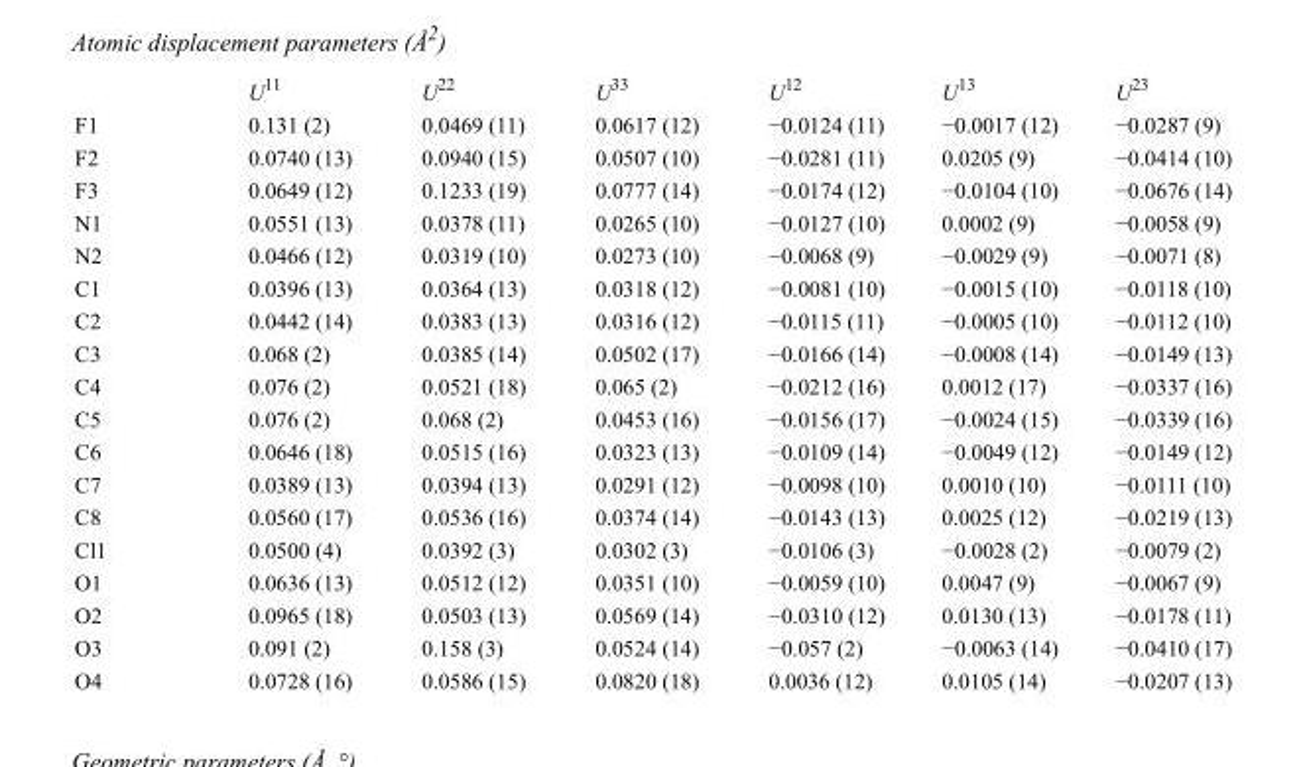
<table><thead><tr><td></td><td>U<sup>11</sup></td><td>U<sup>22</sup></td><td>U<sup>33</sup></td><td>U<sup>12</sup></td><td>U<sup>13</sup></td><td>U<sup>23</sup></td></tr></thead><tbody><tr><td>F1</td><td>0.131 (2)</td><td>0.0469 (11)</td><td>0.0617 (12)</td><td>−0.0124 (11)</td><td>−0.0017 (12)</td><td>−0.0287 (9)</td></tr><tr><td>F2</td><td>0.0740 (13)</td><td>0.0940 (15)</td><td>0.0507 (10)</td><td>−0.0281 (11)</td><td>0.0205 (9)</td><td>−0.0414 (10)</td></tr><tr><td>F3</td><td>0.0649 (12)</td><td>0.1233 (19)</td><td>0.0777 (14)</td><td>−0.0174 (12)</td><td>−0.0104 (10)</td><td>−0.0676 (14)</td></tr><tr><td>N1</td><td>0.0551 (13)</td><td>0.0378 (11)</td><td>0.0265 (10)</td><td>−0.0127 (10)</td><td>0.0002 (9)</td><td>−0.0058 (9)</td></tr><tr><td>N2</td><td>0.0466 (12)</td><td>0.0319 (10)</td><td>0.0273 (10)</td><td>−0.0068 (9)</td><td>−0.0029 (9)</td><td>−0.0071 (8)</td></tr><tr><td>C1</td><td>0.0396 (13)</td><td>0.0364 (13)</td><td>0.0318 (12)</td><td>−0.0081 (10)</td><td>−0.0015 (10)</td><td>−0.0118 (10)</td></tr><tr><td>C2</td><td>0.0442 (14)</td><td>0.0383 (13)</td><td>0.0316 (12)</td><td>−0.0115 (11)</td><td>−0.0005 (10)</td><td>−0.0112 (10)</td></tr><tr><td>C3</td><td>0.068 (2)</td><td>0.0385 (14)</td><td>0.0502 (17)</td><td>−0.0166 (14)</td><td>−0.0008 (14)</td><td>−0.0149 (13)</td></tr><tr><td>C4</td><td>0.076 (2)</td><td>0.0521 (18)</td><td>0.065 (2)</td><td>−0.0212 (16)</td><td>0.0012 (17)</td><td>−0.0337 (16)</td></tr><tr><td>C5</td><td>0.076 (2)</td><td>0.068 (2)</td><td>0.0453 (16)</td><td>−0.0156 (17)</td><td>−0.0024 (15)</td><td>−0.0339 (16)</td></tr><tr><td>C6</td><td>0.0646 (18)</td><td>0.0515 (16)</td><td>0.0323 (13)</td><td>−0.0109 (14)</td><td>−0.0049 (12)</td><td>−0.0149 (12)</td></tr><tr><td>C7</td><td>0.0389 (13)</td><td>0.0394 (13)</td><td>0.0291 (12)</td><td>−0.0098 (10)</td><td>0.0010 (10)</td><td>−0.0111 (10)</td></tr><tr><td>C8</td><td>0.0560 (17)</td><td>0.0536 (16)</td><td>0.0374 (14)</td><td>−0.0143 (13)</td><td>0.0025 (12)</td><td>−0.0219 (13)</td></tr><tr><td>Cl1</td><td>0.0500 (4)</td><td>0.0392 (3)</td><td>0.0302 (3)</td><td>−0.0106 (3)</td><td>−0.0028 (2)</td><td>−0.0079 (2)</td></tr><tr><td>O1</td><td>0.0636 (13)</td><td>0.0512 (12)</td><td>0.0351 (10)</td><td>−0.0059 (10)</td><td>0.0047 (9)</td><td>−0.0067 (9)</td></tr><tr><td>O2</td><td>0.0965 (18)</td><td>0.0503 (13)</td><td>0.0569 (14)</td><td>−0.0310 (12)</td><td>0.0130 (13)</td><td>−0.0178 (11)</td></tr><tr><td>O3</td><td>0.091 (2)</td><td>0.158 (3)</td><td>0.0524 (14)</td><td>−0.057 (2)</td><td>−0.0063 (14)</td><td>−0.0410 (17)</td></tr><tr><td>O4</td><td>0.0728 (16)</td><td>0.0586 (15)</td><td>0.0820 (18)</td><td>0.0036 (12)</td><td>0.0105 (14)</td><td>−0.0207 (13)</td></tr></tbody></table>